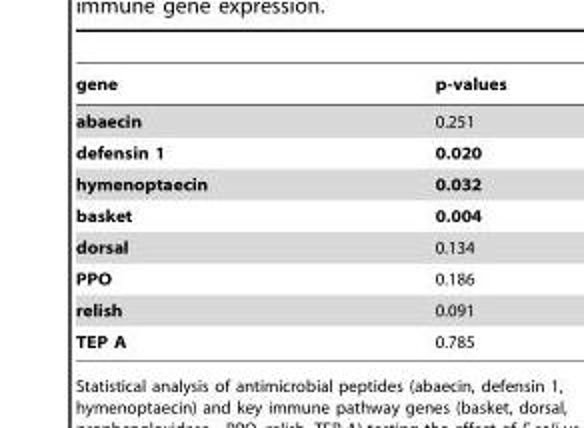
<table><thead><tr><td>gene</td><td>p-values</td></tr></thead><tbody><tr><td>abaecin</td><td>0.251</td></tr><tr><td>defensin 1</td><td>0.020</td></tr><tr><td>hymenoptaecin</td><td>0.032</td></tr><tr><td>basket</td><td>0.004</td></tr><tr><td>dorsal</td><td>0.134</td></tr><tr><td>PPO</td><td>0.186</td></tr><tr><td>relish</td><td>0.091</td></tr><tr><td>TEP A</td><td>0.785</td></tr></tbody></table>